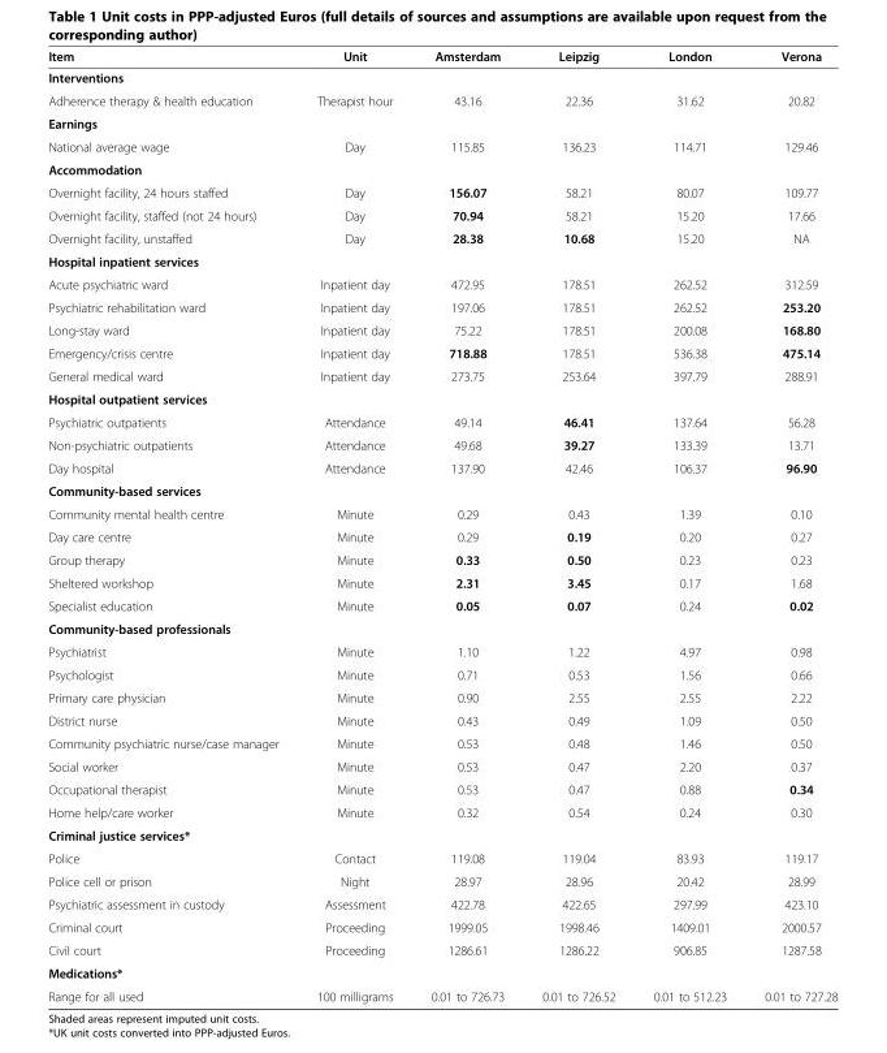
<table><thead><tr><td>Item</td><td>Unit</td><td>Amsterdam</td><td>Leipzig</td><td>London</td><td>Verona</td></tr></thead><tbody><tr><td colspan="6">Interventions</td></tr><tr><td>Adherence therapy &amp; health education</td><td>Therapist hour</td><td>43.16</td><td>22.36</td><td>31.62</td><td>20.82</td></tr><tr><td colspan="6">Earnings</td></tr><tr><td>National average wage</td><td>Day</td><td>115.85</td><td>136.23</td><td>114.71</td><td>129.46</td></tr><tr><td colspan="6">Accommodation</td></tr><tr><td>Overnight facility, 24 hours staffed</td><td>Day</td><td>156.07</td><td>58.21</td><td>80.07</td><td>109.77</td></tr><tr><td>Overnight facility, staffed (not 24 hours)</td><td>Day</td><td>70.94</td><td>58.21</td><td>15.20</td><td>17.66</td></tr><tr><td>Overnight facility, unstaffed</td><td>Day</td><td>28.38</td><td>10.68</td><td>15.20</td><td>NA</td></tr><tr><td colspan="6">Hospital inpatient services</td></tr><tr><td>Acute psychiatric ward</td><td>Inpatient day</td><td>472.95</td><td>178.51</td><td>262.52</td><td>312.59</td></tr><tr><td>Psychiatric rehabilitation ward</td><td>Inpatient day</td><td>197.06</td><td>178.51</td><td>262.52</td><td>253.20</td></tr><tr><td>Long-stay ward</td><td>Inpatient day</td><td>75.22</td><td>178.51</td><td>200.08</td><td>168.80</td></tr><tr><td>Emergency/crisis centre</td><td>Inpatient day</td><td>718.88</td><td>178.51</td><td>536.38</td><td>475.14</td></tr><tr><td>General medical ward</td><td>Inpatient day</td><td>273.75</td><td>253.64</td><td>397.79</td><td>288.91</td></tr><tr><td colspan="6">Hospital outpatient services</td></tr><tr><td>Psychiatric outpatients</td><td>Attendance</td><td>49.14</td><td>46.41</td><td>137.64</td><td>56.28</td></tr><tr><td>Non-psychiatric outpatients</td><td>Attendance</td><td>49.68</td><td>39.27</td><td>133.39</td><td>13.71</td></tr><tr><td>Day hospital</td><td>Attendance</td><td>137.90</td><td>42.46</td><td>106.37</td><td>96.90</td></tr><tr><td colspan="6">Community-based services</td></tr><tr><td>Community mental health centre</td><td>Minute</td><td>0.29</td><td>0.43</td><td>1.39</td><td>0.10</td></tr><tr><td>Day care centre</td><td>Minute</td><td>0.29</td><td>0.19</td><td>0.20</td><td>0.27</td></tr><tr><td>Group therapy</td><td>Minute</td><td>0.33</td><td>0.50</td><td>0.23</td><td>0.23</td></tr><tr><td>Sheltered workshop</td><td>Minute</td><td>2.31</td><td>3.45</td><td>0.17</td><td>1.68</td></tr><tr><td>Specialist education</td><td>Minute</td><td>0.05</td><td>0.07</td><td>0.24</td><td>0.02</td></tr><tr><td colspan="6">Community-based professionals</td></tr><tr><td>Psychiatrist</td><td>Minute</td><td>1.10</td><td>1.22</td><td>4.97</td><td>0.98</td></tr><tr><td>Psychologist</td><td>Minute</td><td>0.71</td><td>0.53</td><td>1.56</td><td>0.66</td></tr><tr><td>Primary care physician</td><td>Minute</td><td>0.90</td><td>2.55</td><td>2.55</td><td>2.22</td></tr><tr><td>District nurse</td><td>Minute</td><td>0.43</td><td>0.49</td><td>1.09</td><td>0.50</td></tr><tr><td>Community psychiatric nurse/case manager</td><td>Minute</td><td>0.53</td><td>0.48</td><td>1.46</td><td>0.50</td></tr><tr><td>Social worker</td><td>Minute</td><td>0.53</td><td>0.47</td><td>2.20</td><td>0.37</td></tr><tr><td>Occupational therapist</td><td>Minute</td><td>0.53</td><td>0.47</td><td>0.88</td><td>0.34</td></tr><tr><td>Home help/care worker</td><td>Minute</td><td>0.32</td><td>0.54</td><td>0.24</td><td>0.30</td></tr><tr><td colspan="6">Criminal justice services*</td></tr><tr><td>Police</td><td>Contact</td><td>119.08</td><td>119.04</td><td>83.93</td><td>119.17</td></tr><tr><td>Police cell or prison</td><td>Night</td><td>28.97</td><td>28.96</td><td>20.42</td><td>28.99</td></tr><tr><td>Psychiatric assessment in custody</td><td>Assessment</td><td>422.78</td><td>422.65</td><td>297.99</td><td>423.10</td></tr><tr><td>Criminal court</td><td>Proceeding</td><td>1999.05</td><td>1998.46</td><td>1409.01</td><td>2000.57</td></tr><tr><td>Civil court</td><td>Proceeding</td><td>1286.61</td><td>1286.22</td><td>906.85</td><td>1287.58</td></tr><tr><td colspan="6">Medications*</td></tr><tr><td>Range for all used</td><td>100 milligrams</td><td>0.01 to 726.73</td><td>0.01 to 726.52</td><td>0.01 to 512.23</td><td>0.01 to 727.28</td></tr></tbody></table>